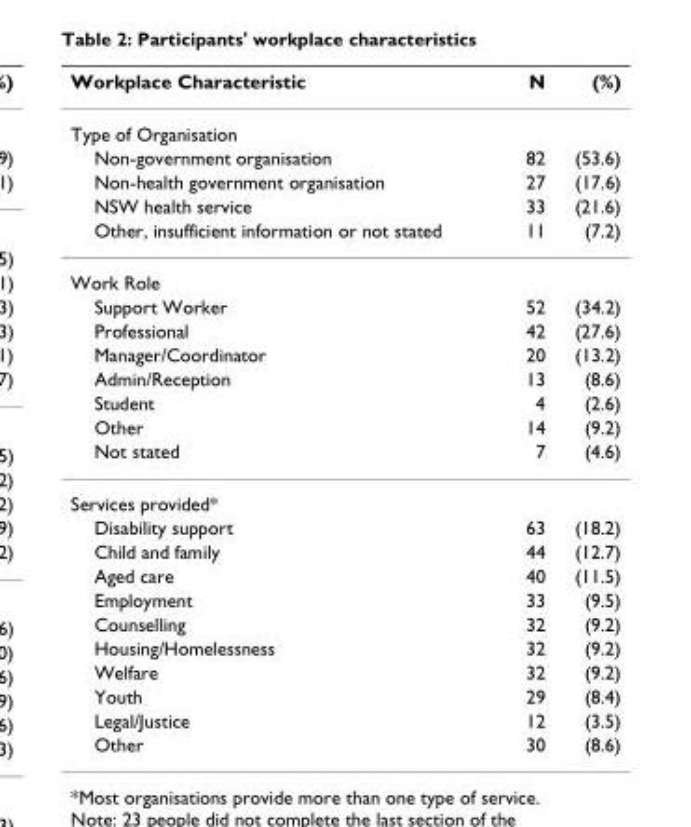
<table><thead><tr><td>Workplace Characteristic</td><td>N</td><td>(%)</td></tr></thead><tbody><tr><td colspan="3">Type of Organisation</td></tr><tr><td>Non-government organisation</td><td>82</td><td>(53.6)</td></tr><tr><td>Non-health government organisation</td><td>27</td><td>(17.6)</td></tr><tr><td>NSW health service</td><td>33</td><td>(21.6)</td></tr><tr><td>Other, insufficient information or not stated</td><td>11</td><td>(7.2)</td></tr><tr><td colspan="3">Work Role</td></tr><tr><td>Support Worker</td><td>52</td><td>(34.2)</td></tr><tr><td>Professional</td><td>42</td><td>(27.6)</td></tr><tr><td>Manager/Coordinator</td><td>20</td><td>(13.2)</td></tr><tr><td>Admin/Reception</td><td>13</td><td>(8.6)</td></tr><tr><td>Student</td><td>4</td><td>(2.6)</td></tr><tr><td>Other</td><td>14</td><td>(9.2)</td></tr><tr><td>Not stated</td><td>7</td><td>(4.6)</td></tr><tr><td colspan="3">Services provided*</td></tr><tr><td>Disability support</td><td>63</td><td>(18.2)</td></tr><tr><td>Child and family</td><td>44</td><td>(12.7)</td></tr><tr><td>Aged care</td><td>40</td><td>(11.5)</td></tr><tr><td>Employment</td><td>33</td><td>(9.5)</td></tr><tr><td>Counselling</td><td>32</td><td>(9.2)</td></tr><tr><td>Housing/Homelessness</td><td>32</td><td>(9.2)</td></tr><tr><td>Welfare</td><td>32</td><td>(9.2)</td></tr><tr><td>Youth</td><td>29</td><td>(8.4)</td></tr><tr><td>Legal/Justice</td><td>12</td><td>(3.5)</td></tr><tr><td>Other</td><td>30</td><td>(8.6)</td></tr></tbody></table>